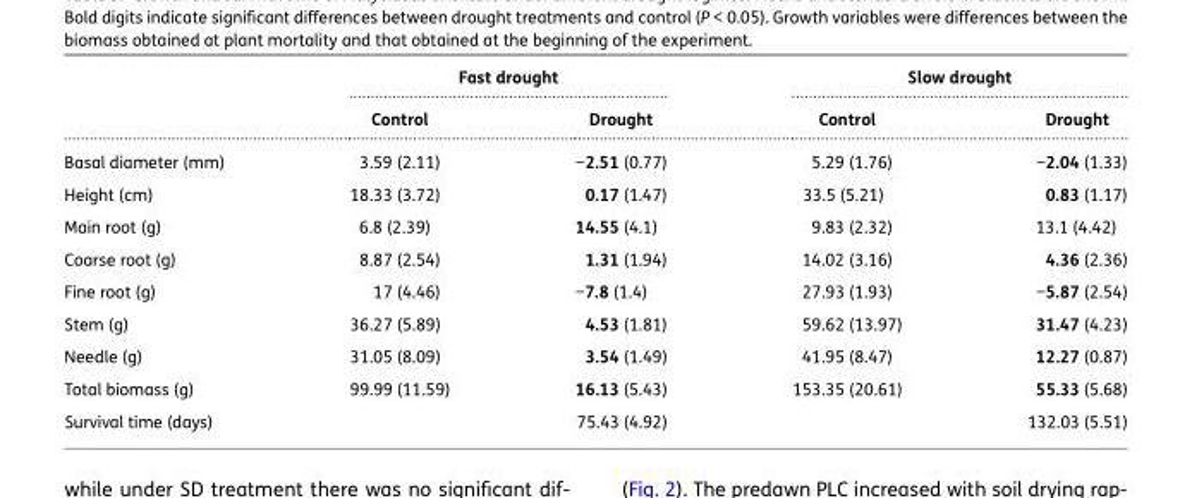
<table><thead><tr><td rowspan="2"></td><td colspan="2">Fast drought</td><td colspan="2">Slow drought</td></tr><tr><td>Control</td><td>Drought</td><td>Control</td><td>Drought</td></tr></thead><tbody><tr><td>Basal diameter (mm)</td><td>3.59 (2.11)</td><td>−2.51 (0.77)</td><td>5.29 (1.76)</td><td>−2.04 (1.33)</td></tr><tr><td>Height (cm)</td><td>18.33 (3.72)</td><td>0.17 (1.47)</td><td>33.5 (5.21)</td><td>0.83 (1.17)</td></tr><tr><td>Main root (g)</td><td>6.8 (2.39)</td><td>14.55 (4.1)</td><td>9.83 (2.32)</td><td>13.1 (4.42)</td></tr><tr><td>Coarse root (g)</td><td>8.87 (2.54)</td><td>1.31 (1.94)</td><td>14.02 (3.16)</td><td>4.36 (2.36)</td></tr><tr><td>Fine root (g)</td><td>17 (4.46)</td><td>−7.8 (1.4)</td><td>27.93 (1.93)</td><td>−5.87 (2.54)</td></tr><tr><td>Stem (g)</td><td>36.27 (5.89)</td><td>4.53 (1.81)</td><td>59.62 (13.97)</td><td>31.47 (4.23)</td></tr><tr><td>Needle (g)</td><td>31.05 (8.09)</td><td>3.54 (1.49)</td><td>41.95 (8.47)</td><td>12.27 (0.87)</td></tr><tr><td>Total biomass (g)</td><td>99.99 (11.59)</td><td>16.13 (5.43)</td><td>153.35 (20.61)</td><td>55.33 (5.68)</td></tr><tr><td>Survival time (days)</td><td></td><td>75.43 (4.92)</td><td></td><td>132.03 (5.51)</td></tr></tbody></table>